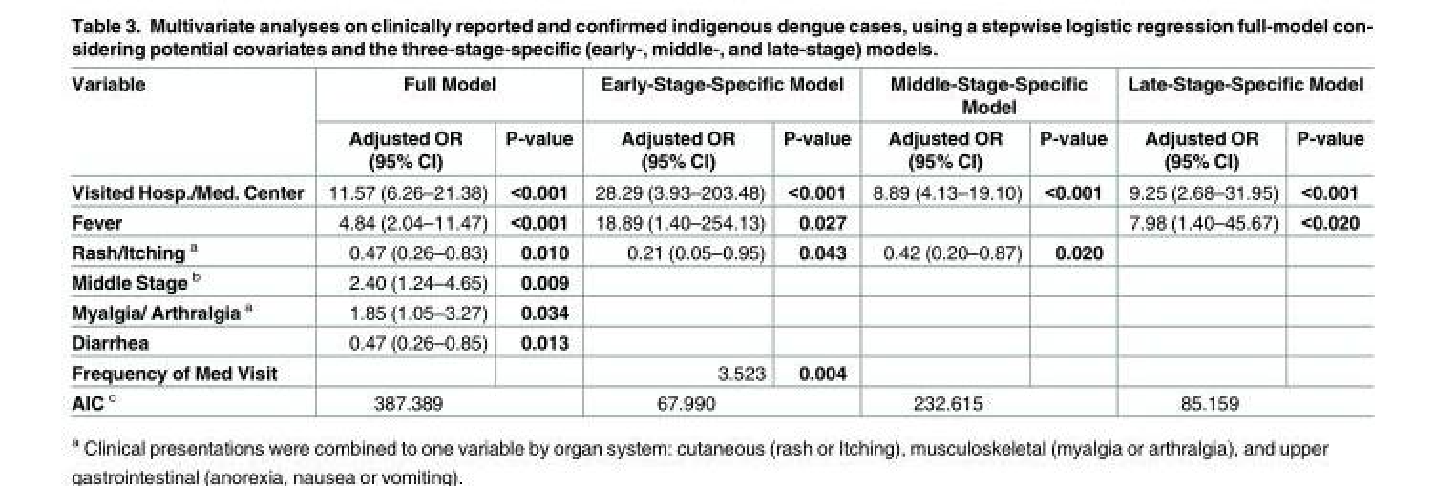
<table><thead><tr><td rowspan="2">Variable</td><td colspan="2">Full Model</td><td colspan="2">Early-Stage-Specific Model</td><td colspan="2">Middle-Stage-Specific Model</td><td colspan="2">Late-Stage-Specific Model</td></tr><tr><td>Adjusted OR (95% CI)</td><td>P-value</td><td>Adjusted OR (95% CI)</td><td>P-value</td><td>Adjusted OR (95% CI)</td><td>P-value</td><td>Adjusted OR (95% CI)</td><td>P-value</td></tr></thead><tbody><tr><td>Visited Hosp./Med. Center</td><td>11.57 (6.26–21.38)</td><td>&lt;0.001</td><td>28.29 (3.93–203.48)</td><td>&lt;0.001</td><td>8.89 (4.13–19.10)</td><td>&lt;0.001</td><td>9.25 (2.68–31.95)</td><td>&lt;0.001</td></tr><tr><td>Fever</td><td>4.84 (2.04–11.47)</td><td>&lt;0.001</td><td>18.89 (1.40–254.13)</td><td>0.027</td><td></td><td></td><td>7.98 (1.40–45.67)</td><td>&lt;0.020</td></tr><tr><td>Rash/Itching <sup>a</sup></td><td>0.47 (0.26–0.83)</td><td>0.010</td><td>0.21 (0.05–0.95)</td><td>0.043</td><td>0.42 (0.20–0.87)</td><td>0.020</td><td></td><td></td></tr><tr><td>Middle Stage <sup>b</sup></td><td>2.40 (1.24–4.65)</td><td>0.009</td><td></td><td></td><td></td><td></td><td></td><td></td></tr><tr><td>Myalgia/ Arthralgia <sup>a</sup></td><td>1.85 (1.05–3.27)</td><td>0.034</td><td></td><td></td><td></td><td></td><td></td><td></td></tr><tr><td>Diarrhea</td><td>0.47 (0.26–0.85)</td><td>0.013</td><td></td><td></td><td></td><td></td><td></td><td></td></tr><tr><td>Frequency of Med Visit</td><td></td><td></td><td>3.523</td><td>0.004</td><td></td><td></td><td></td><td></td></tr><tr><td>AIC <sup>c</sup></td><td colspan="2">387.389</td><td colspan="2">67.990</td><td colspan="2">232.615</td><td colspan="2">85.159</td></tr></tbody></table>